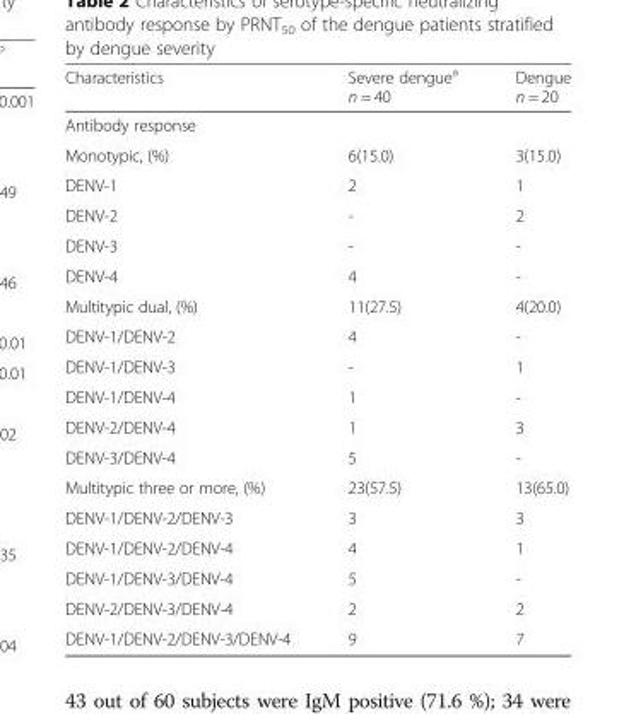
<table><thead><tr><td>Characteristics</td><td>Severe dengue<sup>a</sup> n = 40</td><td>Dengue n = 20</td></tr></thead><tbody><tr><td colspan="3">Antibody response</td></tr><tr><td>Monotypic, (%)</td><td>6(15.0)</td><td>3(15.0)</td></tr><tr><td>DENV-1</td><td>2</td><td>1</td></tr><tr><td>DENV-2</td><td>-</td><td>2</td></tr><tr><td>DENV-3</td><td>-</td><td>-</td></tr><tr><td>DENV-4</td><td>4</td><td>-</td></tr><tr><td>Multitypic dual, (%)</td><td>11(27.5)</td><td>4(20.0)</td></tr><tr><td>DENV-1/DENV-2</td><td>4</td><td>-</td></tr><tr><td>DENV-1/DENV-3</td><td>-</td><td>1</td></tr><tr><td>DENV-1/DENV-4</td><td>1</td><td>-</td></tr><tr><td>DENV-2/DENV-4</td><td>1</td><td>3</td></tr><tr><td>DENV-3/DENV-4</td><td>5</td><td>-</td></tr><tr><td>Multitypic three or more, (%)</td><td>23(57.5)</td><td>13(65.0)</td></tr><tr><td>DENV-1/DENV-2/DENV-3</td><td>3</td><td>3</td></tr><tr><td>DENV-1/DENV-2/DENV-4</td><td>4</td><td>1</td></tr><tr><td>DENV-1/DENV-3/DENV-4</td><td>5</td><td>-</td></tr><tr><td>DENV-2/DENV-3/DENV-4</td><td>2</td><td>2</td></tr><tr><td>DENV-1/DENV-2/DENV-3/DENV-4</td><td>9</td><td>7</td></tr></tbody></table>